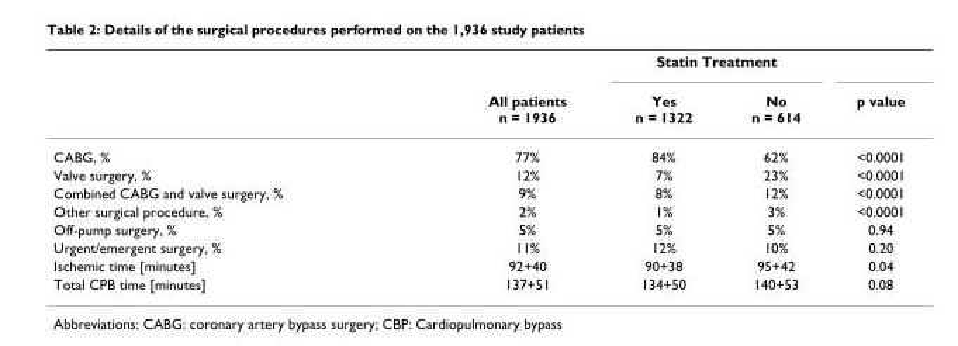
<table><thead><tr><td rowspan="2"></td><td rowspan="2">All patients n = 1936</td><td colspan="2">Statin Treatment</td><td rowspan="2">p value</td></tr><tr><td>Yes n = 1322</td><td>No n = 614</td></tr></thead><tbody><tr><td>CABG, %</td><td>77%</td><td>84%</td><td>62%</td><td>&lt;0.0001</td></tr><tr><td>Valve surgery, %</td><td>12%</td><td>7%</td><td>23%</td><td>&lt;0.0001</td></tr><tr><td>Combined CABG and valve surgery, %</td><td>9%</td><td>8%</td><td>12%</td><td>&lt;0.0001</td></tr><tr><td>Other surgical procedure, %</td><td>2%</td><td>1%</td><td>3%</td><td>&lt;0.0001</td></tr><tr><td>Off-pump surgery, %</td><td>5%</td><td>5%</td><td>5%</td><td>0.94</td></tr><tr><td>Urgent/emergent surgery, %</td><td>11%</td><td>12%</td><td>10%</td><td>0.20</td></tr><tr><td>Ischemic time [minutes]</td><td>92+40</td><td>90+38</td><td>95+42</td><td>0.04</td></tr><tr><td>Total CPB time [minutes]</td><td>137+51</td><td>134+50</td><td>140+53</td><td>0.08</td></tr></tbody></table>